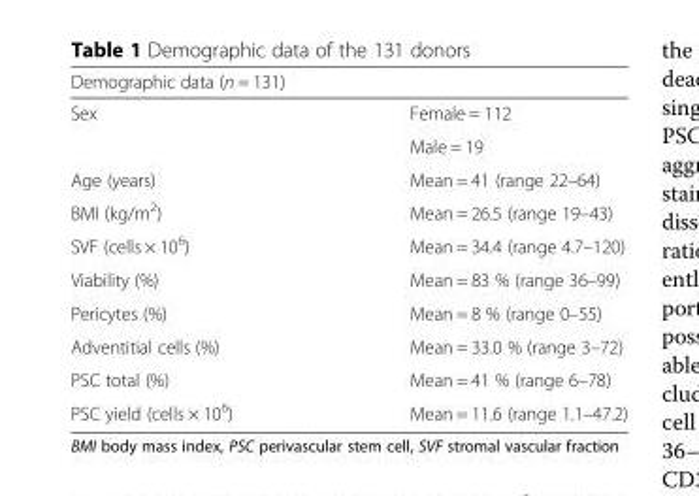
<table><thead><tr><td colspan="2">Demographic data (n = 131)</td></tr><tr><td>Sex</td><td>Female = 112</td></tr></thead><tbody><tr><td></td><td>Male = 19</td></tr><tr><td>Age (years)</td><td>Mean = 41 (range 22–64)</td></tr><tr><td>BMI (kg/m<sup>2</sup>)</td><td>Mean = 26.5 (range 19–43)</td></tr><tr><td>SVF (cells × 10<sup>6</sup>)</td><td>Mean = 34.4 (range 4.7–120)</td></tr><tr><td>Viability (%)</td><td>Mean = 83 % (range 36–99)</td></tr><tr><td>Pericytes (%)</td><td>Mean = 8 % (range 0–55)</td></tr><tr><td>Adventitial cells (%)</td><td>Mean = 33.0 % (range 3–72)</td></tr><tr><td>PSC total (%)</td><td>Mean = 41 % (range 6–78)</td></tr><tr><td>PSC yield (cells × 10<sup>6</sup>)</td><td>Mean = 11.6 (range 1.1–47.2)</td></tr></tbody></table>